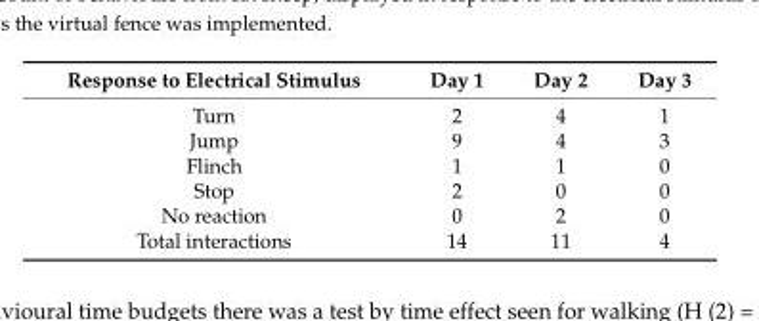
<table><thead><tr><td>Response to Electrical Stimulus</td><td>Day 1</td><td>Day 2</td><td>Day 3</td></tr></thead><tbody><tr><td>Turn</td><td>2</td><td>4</td><td>1</td></tr><tr><td>Jump</td><td>9</td><td>4</td><td>3</td></tr><tr><td>Flinch</td><td>1</td><td>1</td><td>0</td></tr><tr><td>Stop</td><td>2</td><td>0</td><td>0</td></tr><tr><td>No reaction</td><td>0</td><td>2</td><td>0</td></tr><tr><td>Total interactions</td><td>14</td><td>11</td><td>4</td></tr></tbody></table>